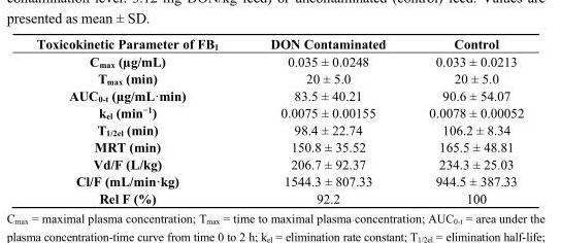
<table><thead><tr><td>Toxicokinetic Parameter of FB<sub>1</sub></td><td>DON Contaminated</td><td>Control</td></tr></thead><tbody><tr><td>C<sub>max</sub> (µg/mL)</td><td>0.035 ± 0.0248</td><td>0.033 ± 0.0213</td></tr><tr><td>T<sub>max</sub> (min)</td><td>20 ± 5.0</td><td>20 ± 5.0</td></tr><tr><td>AUC<sub>0-t</sub> (µg/mL·min)</td><td>83.5 ± 40.21</td><td>90.6 ± 54.07</td></tr><tr><td>k<sub>el</sub> (min<sup>−1</sup>)</td><td>0.0075 ± 0.00155</td><td>0.0078 ± 0.00052</td></tr><tr><td>T<sub>1/2el</sub> (min)</td><td>98.4 ± 22.74</td><td>106.2 ± 8.34</td></tr><tr><td>MRT (min)</td><td>150.8 ± 35.52</td><td>165.5 ± 48.81</td></tr><tr><td>Vd/F (L/kg)</td><td>206.7 ± 92.37</td><td>234.3 ± 25.03</td></tr><tr><td>Cl/F (mL/min·kg)</td><td>1544.3 ± 807.33</td><td>944.5 ± 387.33</td></tr><tr><td>Rel F (%)</td><td>92.2</td><td>100</td></tr></tbody></table>